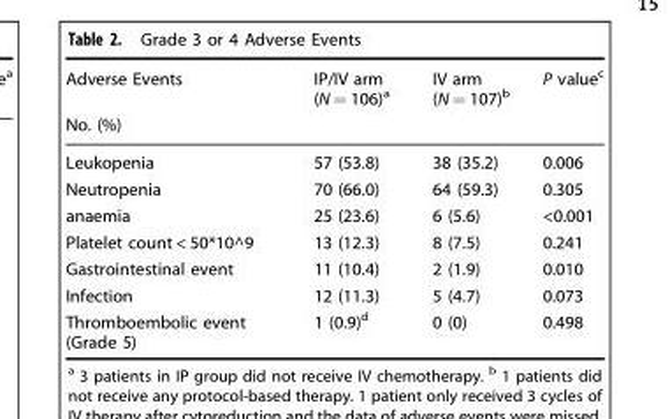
<table><thead><tr><td>Adverse Events</td><td>IP/IV arm (N = 106)<sup>a</sup></td><td>IV arm (N = 107)<sup>b</sup></td><td>P value<sup>c</sup></td></tr><tr><td colspan="4">No. (%)</td></tr></thead><tbody><tr><td>Leukopenia</td><td>57 (53.8)</td><td>38 (35.2)</td><td>0.006</td></tr><tr><td>Neutropenia</td><td>70 (66.0)</td><td>64 (59.3)</td><td>0.305</td></tr><tr><td>anaemia</td><td>25 (23.6)</td><td>6 (5.6)</td><td>&lt;0.001</td></tr><tr><td>Platelet count &lt; 50*10^9</td><td>13 (12.3)</td><td>8 (7.5)</td><td>0.241</td></tr><tr><td>Gastrointestinal event</td><td>11 (10.4)</td><td>2 (1.9)</td><td>0.010</td></tr><tr><td>Infection</td><td>12 (11.3)</td><td>5 (4.7)</td><td>0.073</td></tr><tr><td>Thromboembolic event (Grade 5)</td><td>1 (0.9)<sup>d</sup></td><td>0 (0)</td><td>0.498</td></tr></tbody></table>